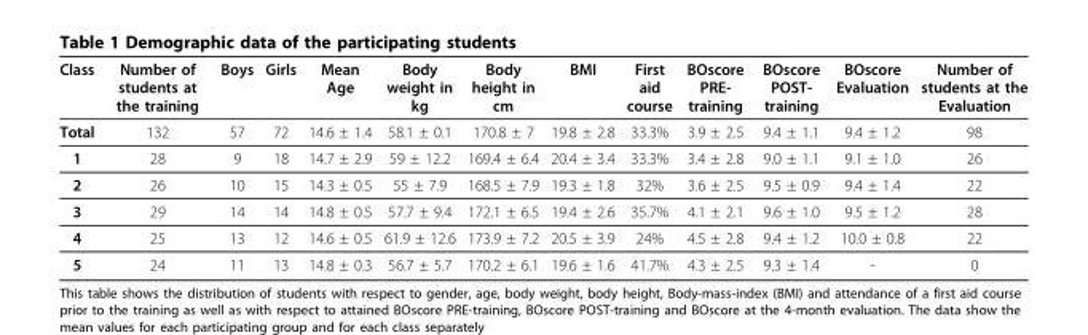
<table><thead><tr><td>Class</td><td>Number of students at the training</td><td>Boys</td><td>Girls</td><td>Mean Age</td><td>Body weight in kg</td><td>Body height in cm</td><td>BMI</td><td>First aid course</td><td>BOscore PRE- training</td><td>BOscore POST- training</td><td>BOscore Evaluation</td><td>Number of students at the Evaluation</td></tr></thead><tbody><tr><td>Total</td><td>132</td><td>57</td><td>72</td><td>14.6 ± 1.4</td><td>58.1 ± 0.1</td><td>170.8 ± 7</td><td>19.8 ± 2.8</td><td>33.3%</td><td>3.9 ± 2.5</td><td>9.4 ± 1.1</td><td>9.4 ± 1.2</td><td>98</td></tr><tr><td>1</td><td>28</td><td>9</td><td>18</td><td>14.7 ± 2.9</td><td>59 ± 12.2</td><td>169.4 ± 6.4</td><td>20.4 ± 3.4</td><td>33.3%</td><td>3.4 ± 2.8</td><td>9.0 ± 1.1</td><td>9.1 ± 1.0</td><td>26</td></tr><tr><td>2</td><td>26</td><td>10</td><td>15</td><td>14.3 ± 0.5</td><td>55 ± 7.9</td><td>168.5 ± 7.9</td><td>19.3 ± 1.8</td><td>32%</td><td>3.6 ± 2.5</td><td>9.5 ± 0.9</td><td>9.4 ± 1.4</td><td>22</td></tr><tr><td>3</td><td>29</td><td>14</td><td>14</td><td>14.8 ± 0.5</td><td>57.7 ± 9.4</td><td>172.1 ± 6.5</td><td>19.4 ± 2.6</td><td>35.7%</td><td>4.1 ± 2.1</td><td>9.6 ± 1.0</td><td>9.5 ± 1.2</td><td>28</td></tr><tr><td>4</td><td>25</td><td>13</td><td>12</td><td>14.6 ± 0.5</td><td>61.9 ± 12.6</td><td>173.9 ± 7.2</td><td>20.5 ± 3.9</td><td>24%</td><td>4.5 ± 2.8</td><td>9.4 ± 1.2</td><td>10.0 ± 0.8</td><td>22</td></tr><tr><td>5</td><td>24</td><td>11</td><td>13</td><td>14.8 ± 0.3</td><td>56.7 ± 5.7</td><td>170.2 ± 6.1</td><td>19.6 ± 1.6</td><td>41.7%</td><td>4.3 ± 2.5</td><td>9.3 ± 1.4</td><td>-</td><td>0</td></tr></tbody></table>